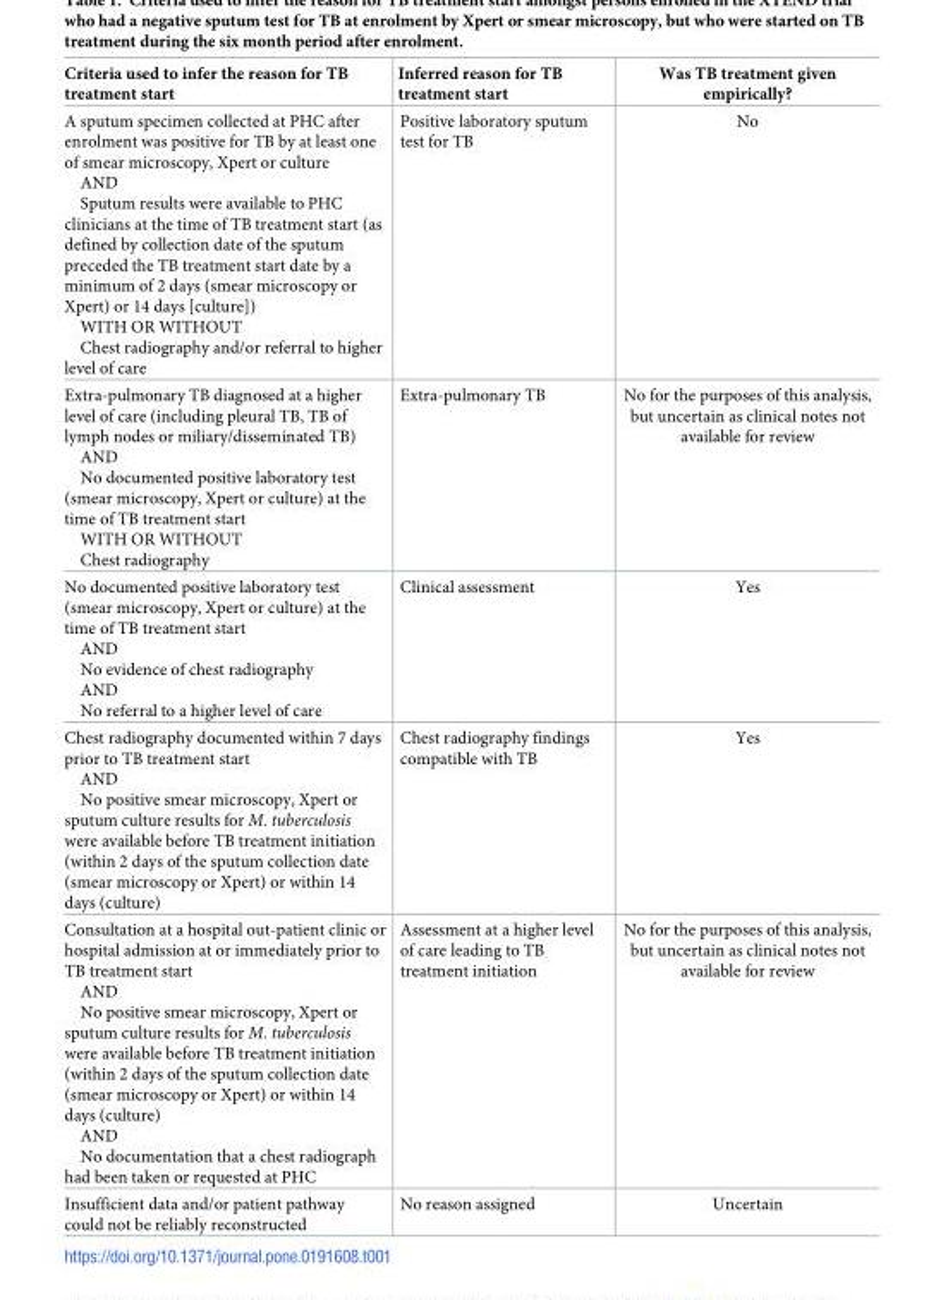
<table><thead><tr><td>Criteria used to infer the reason for TB treatment start</td><td>Inferred reason for TB treatment start</td><td>Was TB treatment given empirically?</td></tr></thead><tbody><tr><td>A sputum specimen collected at PHC after enrolment was positive for TB by at least one of smear microscopy, Xpert or culture AND Sputum results were available to PHC clinicians at the time of TB treatment start (as defined by collection date of the sputum preceded the TB treatment start date by a minimum of 2 days (smear microscopy or Xpert) or 14 days [culture]) WITH OR WITHOUT Chest radiography and/or referral to higher level of care</td><td>Positive laboratory sputum test for TB</td><td>No</td></tr><tr><td>Extra-pulmonary TB diagnosed at a higher level of care (including pleural TB, TB of lymph nodes or miliary/disseminated TB) AND No documented positive laboratory test (smear microscopy, Xpert or culture) at the time of TB treatment start WITH OR WITHOUT Chest radiography</td><td>Extra-pulmonary TB</td><td>No for the purposes of this analysis, but uncertain as clinical notes not available for review</td></tr><tr><td>No documented positive laboratory test (smear microscopy, Xpert or culture) at the time of TB treatment start AND No evidence of chest radiography AND No referral to a higher level of care</td><td>Clinical assessment</td><td>Yes</td></tr><tr><td>Chest radiography documented within 7 days prior to TB treatment start AND No positive smear microscopy, Xpert or sputum culture results for M. tuberculosis were available before TB treatment initiation (within 2 days of the sputum collection date (smear microscopy or Xpert) or within 14 days (culture)</td><td>Chest radiography findings compatible with TB</td><td>Yes</td></tr><tr><td>Consultation at a hospital out-patient clinic or hospital admission at or immediately prior to TB treatment start AND No positive smear microscopy, Xpert or sputum culture results for M. tuberculosis were available before TB treatment initiation (within 2 days of the sputum collection date (smear microscopy or Xpert) or within 14 days (culture) AND No documentation that a chest radiograph had been taken or requested at PHC</td><td>Assessment at a higher level of care leading to TB treatment initiation</td><td>No for the purposes of this analysis, but uncertain as clinical notes not available for review</td></tr><tr><td>Insufficient data and/or patient pathway could not be reliably reconstructed</td><td>No reason assigned</td><td>Uncertain</td></tr></tbody></table>